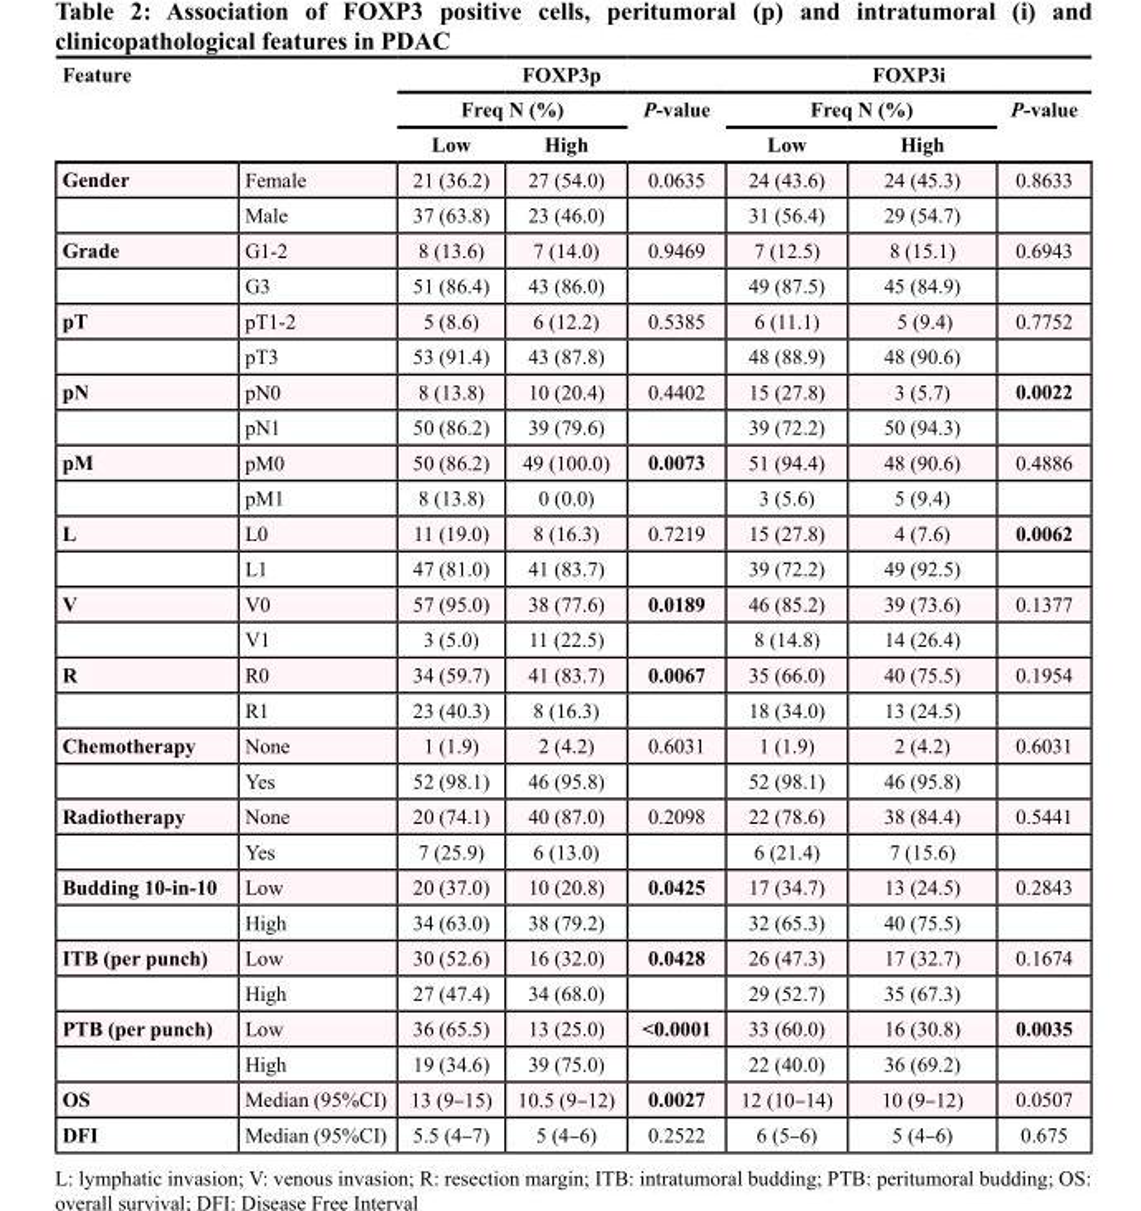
<table><thead><tr><td rowspan="3">Feature</td><td rowspan="3"></td><td colspan="3">FOXP3p</td><td colspan="3">FOXP3i</td></tr><tr><td colspan="2">Freq N (%)</td><td rowspan="2">P-value</td><td colspan="2">Freq N (%)</td><td rowspan="2">P-value</td></tr><tr><td>Low</td><td>High</td><td>Low</td><td>High</td></tr></thead><tbody><tr><td rowspan="2">Gender</td><td>Female</td><td>21 (36.2)</td><td>27 (54.0)</td><td>0.0635</td><td>24 (43.6)</td><td>24 (45.3)</td><td>0.8633</td></tr><tr><td>Male</td><td>37 (63.8)</td><td>23 (46.0)</td><td></td><td>31 (56.4)</td><td>29 (54.7)</td><td></td></tr><tr><td rowspan="2">Grade</td><td>G1-2</td><td>8 (13.6)</td><td>7 (14.0)</td><td>0.9469</td><td>7 (12.5)</td><td>8 (15.1)</td><td>0.6943</td></tr><tr><td>G3</td><td>51 (86.4)</td><td>43 (86.0)</td><td></td><td>49 (87.5)</td><td>45 (84.9)</td><td></td></tr><tr><td rowspan="2">pT</td><td>pT1-2</td><td>5 (8.6)</td><td>6 (12.2)</td><td>0.5385</td><td>6 (11.1)</td><td>5 (9.4)</td><td>0.7752</td></tr><tr><td>pT3</td><td>53 (91.4)</td><td>43 (87.8)</td><td></td><td>48 (88.9)</td><td>48 (90.6)</td><td></td></tr><tr><td rowspan="2">pN</td><td>pN0</td><td>8 (13.8)</td><td>10 (20.4)</td><td>0.4402</td><td>15 (27.8)</td><td>3 (5.7)</td><td>0.0022</td></tr><tr><td>pN1</td><td>50 (86.2)</td><td>39 (79.6)</td><td></td><td>39 (72.2)</td><td>50 (94.3)</td><td></td></tr><tr><td rowspan="2">pM</td><td>pM0</td><td>50 (86.2)</td><td>49 (100.0)</td><td>0.0073</td><td>51 (94.4)</td><td>48 (90.6)</td><td>0.4886</td></tr><tr><td>pM1</td><td>8 (13.8)</td><td>0 (0.0)</td><td></td><td>3 (5.6)</td><td>5 (9.4)</td><td></td></tr><tr><td rowspan="2">L</td><td>L0</td><td>11 (19.0)</td><td>8 (16.3)</td><td>0.7219</td><td>15 (27.8)</td><td>4 (7.6)</td><td>0.0062</td></tr><tr><td>L1</td><td>47 (81.0)</td><td>41 (83.7)</td><td></td><td>39 (72.2)</td><td>49 (92.5)</td><td></td></tr><tr><td rowspan="2">V</td><td>V0</td><td>57 (95.0)</td><td>38 (77.6)</td><td>0.0189</td><td>46 (85.2)</td><td>39 (73.6)</td><td>0.1377</td></tr><tr><td>V1</td><td>3 (5.0)</td><td>11 (22.5)</td><td></td><td>8 (14.8)</td><td>14 (26.4)</td><td></td></tr><tr><td rowspan="2">R</td><td>R0</td><td>34 (59.7)</td><td>41 (83.7)</td><td>0.0067</td><td>35 (66.0)</td><td>40 (75.5)</td><td>0.1954</td></tr><tr><td>R1</td><td>23 (40.3)</td><td>8 (16.3)</td><td></td><td>18 (34.0)</td><td>13 (24.5)</td><td></td></tr><tr><td rowspan="2">Chemotherapy</td><td>None</td><td>1 (1.9)</td><td>2 (4.2)</td><td>0.6031</td><td>1 (1.9)</td><td>2 (4.2)</td><td>0.6031</td></tr><tr><td>Yes</td><td>52 (98.1)</td><td>46 (95.8)</td><td></td><td>52 (98.1)</td><td>46 (95.8)</td><td></td></tr><tr><td rowspan="2">Radiotherapy</td><td>None</td><td>20 (74.1)</td><td>40 (87.0)</td><td>0.2098</td><td>22 (78.6)</td><td>38 (84.4)</td><td>0.5441</td></tr><tr><td>Yes</td><td>7 (25.9)</td><td>6 (13.0)</td><td></td><td>6 (21.4)</td><td>7 (15.6)</td><td></td></tr><tr><td rowspan="2">Budding 10-in-10</td><td>Low</td><td>20 (37.0)</td><td>10 (20.8)</td><td>0.0425</td><td>17 (34.7)</td><td>13 (24.5)</td><td>0.2843</td></tr><tr><td>High</td><td>34 (63.0)</td><td>38 (79.2)</td><td></td><td>32 (65.3)</td><td>40 (75.5)</td><td></td></tr><tr><td rowspan="2">ITB (per punch)</td><td>Low</td><td>30 (52.6)</td><td>16 (32.0)</td><td>0.0428</td><td>26 (47.3)</td><td>17 (32.7)</td><td>0.1674</td></tr><tr><td>High</td><td>27 (47.4)</td><td>34 (68.0)</td><td></td><td>29 (52.7)</td><td>35 (67.3)</td><td></td></tr><tr><td rowspan="2">PTB (per punch)</td><td>Low</td><td>36 (65.5)</td><td>13 (25.0)</td><td>&lt;0.0001</td><td>33 (60.0)</td><td>16 (30.8)</td><td>0.0035</td></tr><tr><td>High</td><td>19 (34.6)</td><td>39 (75.0)</td><td></td><td>22 (40.0)</td><td>36 (69.2)</td><td></td></tr><tr><td>OS</td><td>Median (95%CI)</td><td>13 (9–15)</td><td>10.5 (9–12)</td><td>0.0027</td><td>12 (10–14)</td><td>10 (9–12)</td><td>0.0507</td></tr><tr><td>DFI</td><td>Median (95%CI)</td><td>5.5 (4–7)</td><td>5 (4–6)</td><td>0.2522</td><td>6 (5–6)</td><td>5 (4–6)</td><td>0.675</td></tr></tbody></table>